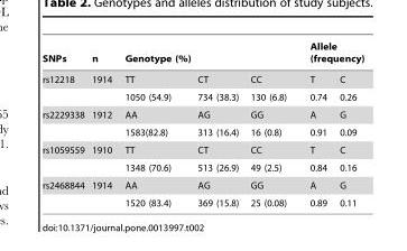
<table><thead><tr><td rowspan="2">SNPs rs12218</td><td rowspan="2">n 1914</td><td colspan="3">Genotype (%)</td><td colspan="2">Allele (frequency)</td></tr><tr><td>TT</td><td>CT</td><td>CC</td><td>T</td><td>C</td></tr></thead><tbody><tr><td></td><td></td><td>1050 (54.9)</td><td>734 (38.3)</td><td>130 (6.8)</td><td>0.74</td><td>0.26</td></tr><tr><td rowspan="2">rs2229338</td><td>1912</td><td>AA</td><td>AG</td><td>GG</td><td>A</td><td>G</td></tr><tr><td></td><td>1583(82.8)</td><td>313 (16.4)</td><td>16 (0.8)</td><td>0.91</td><td>0.09</td></tr><tr><td rowspan="2">rs1059559</td><td>1910</td><td>TT</td><td>CT</td><td>CC</td><td>T</td><td>C</td></tr><tr><td></td><td>1348 (70.6)</td><td>513 (26.9)</td><td>49 (2.5)</td><td>0.84</td><td>0.16</td></tr><tr><td rowspan="2">rs2468844</td><td>1914</td><td>AA</td><td>AG</td><td>GG</td><td>A</td><td>G</td></tr><tr><td></td><td>1520 (83.4)</td><td>369 (15.8)</td><td>25 (0.08)</td><td>0.89</td><td>0.11</td></tr></tbody></table>